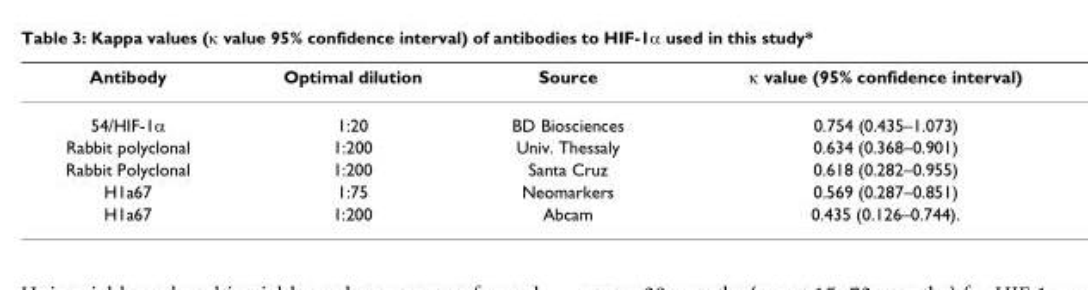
<table><thead><tr><td>Antibody</td><td>Optimal dilution</td><td>Source</td><td>κ value (95% confidence interval)</td></tr></thead><tbody><tr><td>54/HIF-1α</td><td>1:20</td><td>BD Biosciences</td><td>0.754 (0.435–1.073)</td></tr><tr><td>Rabbit polyclonal</td><td>1:200</td><td>Univ. Thessaly</td><td>0.634 (0.368–0.901)</td></tr><tr><td>Rabbit Polyclonal</td><td>1:200</td><td>Santa Cruz</td><td>0.618 (0.282–0.955)</td></tr><tr><td>H1a67</td><td>1:75</td><td>Neomarkers</td><td>0.569 (0.287–0.851)</td></tr><tr><td>H1a67</td><td>1:200</td><td>Abcam</td><td>0.435 (0.126–0.744).</td></tr></tbody></table>